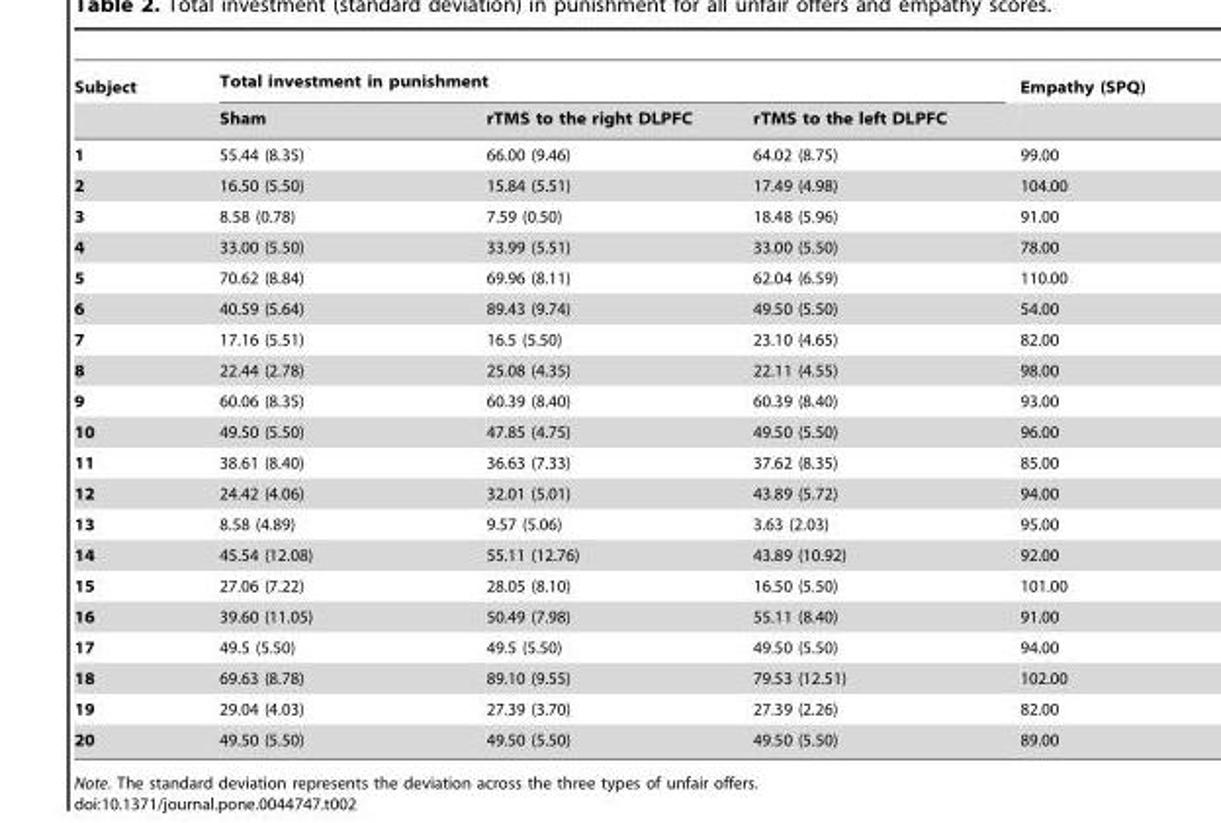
<table><thead><tr><td rowspan="2">Subject</td><td colspan="3">Total investment in punishment</td><td rowspan="2">Empathy (SPQ)</td></tr><tr><td>Sham</td><td>rTMS to the right DLPFC</td><td>rTMS to the left DLPFC</td></tr></thead><tbody><tr><td>1</td><td>55.44 (8.35)</td><td>66.00 (9.46)</td><td>64.02 (8.75)</td><td>99.00</td></tr><tr><td>2</td><td>16.50 (5.50)</td><td>15.84 (5.51)</td><td>17.49 (4.98)</td><td>104.00</td></tr><tr><td>3</td><td>8.58 (0.78)</td><td>7.59 (0.50)</td><td>18.48 (5.96)</td><td>91.00</td></tr><tr><td>4</td><td>33.00 (5.50)</td><td>33.99 (5.51)</td><td>33.00 (5.50)</td><td>78.00</td></tr><tr><td>5</td><td>70.62 (8.84)</td><td>69.96 (8.11)</td><td>62.04 (6.59)</td><td>110.00</td></tr><tr><td>6</td><td>40.59 (5.64)</td><td>89.43 (9.74)</td><td>49.50 (5.50)</td><td>54.00</td></tr><tr><td>7</td><td>17.16 (5.51)</td><td>16.5 (5.50)</td><td>23.10 (4.65)</td><td>82.00</td></tr><tr><td>8</td><td>22.44 (2.78)</td><td>25.08 (4.35)</td><td>22.11 (4.55)</td><td>98.00</td></tr><tr><td>9</td><td>60.06 (8.35)</td><td>60.39 (8.40)</td><td>60.39 (8.40)</td><td>93.00</td></tr><tr><td>10</td><td>49.50 (5.50)</td><td>47.85 (4.75)</td><td>49.50 (5.50)</td><td>96.00</td></tr><tr><td>11</td><td>38.61 (8.40)</td><td>36.63 (7.33)</td><td>37.62 (8.35)</td><td>85.00</td></tr><tr><td>12</td><td>24.42 (4.06)</td><td>32.01 (5.01)</td><td>43.89 (5.72)</td><td>94.00</td></tr><tr><td>13</td><td>8.58 (4.89)</td><td>9.57 (5.06)</td><td>3.63 (2.03)</td><td>95.00</td></tr><tr><td>14</td><td>45.54 (12.08)</td><td>55.11 (12.76)</td><td>43.89 (10.92)</td><td>92.00</td></tr><tr><td>15</td><td>27.06 (7.22)</td><td>28.05 (8.10)</td><td>16.50 (5.50)</td><td>101.00</td></tr><tr><td>16</td><td>39.60 (11.05)</td><td>50.49 (7.98)</td><td>55.11 (8.40)</td><td>91.00</td></tr><tr><td>17</td><td>49.5 (5.50)</td><td>49.5 (5.50)</td><td>49.50 (5.50)</td><td>94.00</td></tr><tr><td>18</td><td>69.63 (8.78)</td><td>89.10 (9.55)</td><td>79.53 (12.51)</td><td>102.00</td></tr><tr><td>19</td><td>29.04 (4.03)</td><td>27.39 (3.70)</td><td>27.39 (2.26)</td><td>82.00</td></tr><tr><td>20</td><td>49.50 (5.50)</td><td>49.50 (5.50)</td><td>49.50 (5.50)</td><td>89.00</td></tr></tbody></table>